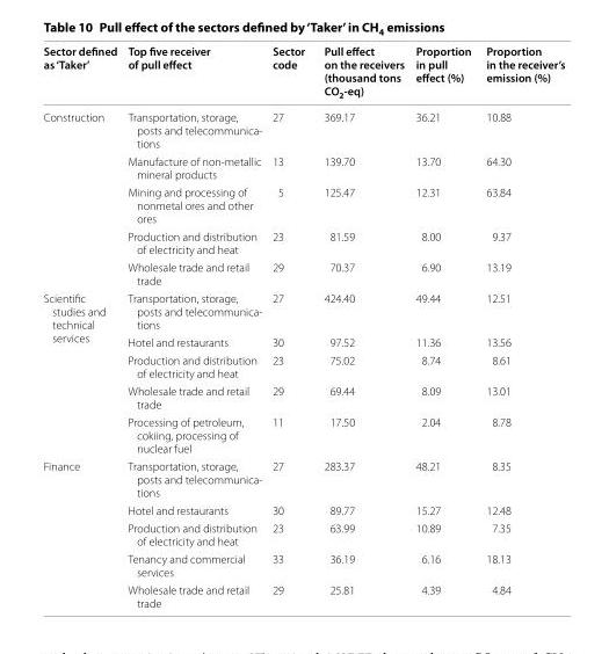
<table><thead><tr><td>Sector defined as ‘Taker’</td><td>Top five receiver of pull effect</td><td>Sector code</td><td>Pull effect on the receivers (thousand tons CO<sub>2</sub>-eq)</td><td>Proportion in pull effect (%)</td><td>Proportion in the receiver’s emission (%)</td></tr></thead><tbody><tr><td rowspan="5">Construction</td><td>Transportation, storage, posts and telecommunica- tions</td><td>27</td><td>369.17</td><td>36.21</td><td>10.88</td></tr><tr><td>Manufacture of non-metallic mineral products</td><td>13</td><td>139.70</td><td>13.70</td><td>64.30</td></tr><tr><td>Mining and processing of nonmetal ores and other ores</td><td>5</td><td>125.47</td><td>12.31</td><td>63.84</td></tr><tr><td>Production and distribution of electricity and heat</td><td>23</td><td>81.59</td><td>8.00</td><td>9.37</td></tr><tr><td>Wholesale trade and retail trade</td><td>29</td><td>70.37</td><td>6.90</td><td>13.19</td></tr><tr><td rowspan="5">Scientific studies and technical services</td><td>Transportation, storage, posts and telecommunica- tions</td><td>27</td><td>424.40</td><td>49.44</td><td>12.51</td></tr><tr><td>Hotel and restaurants</td><td>30</td><td>97.52</td><td>11.36</td><td>13.56</td></tr><tr><td>Production and distribution of electricity and heat</td><td>23</td><td>75.02</td><td>8.74</td><td>8.61</td></tr><tr><td>Wholesale trade and retail trade</td><td>29</td><td>69.44</td><td>8.09</td><td>13.01</td></tr><tr><td>Processing of petroleum, cokiing, processing of nuclear fuel</td><td>11</td><td>17.50</td><td>2.04</td><td>8.78</td></tr><tr><td rowspan="5">Finance</td><td>Transportation, storage, posts and telecommunica- tions</td><td>27</td><td>283.37</td><td>48.21</td><td>8.35</td></tr><tr><td>Hotel and restaurants</td><td>30</td><td>89.77</td><td>15.27</td><td>12.48</td></tr><tr><td>Production and distribution of electricity and heat</td><td>23</td><td>63.99</td><td>10.89</td><td>7.35</td></tr><tr><td>Tenancy and commercial services</td><td>33</td><td>36.19</td><td>6.16</td><td>18.13</td></tr><tr><td>Wholesale trade and retail trade</td><td>29</td><td>25.81</td><td>4.39</td><td>4.84</td></tr></tbody></table>